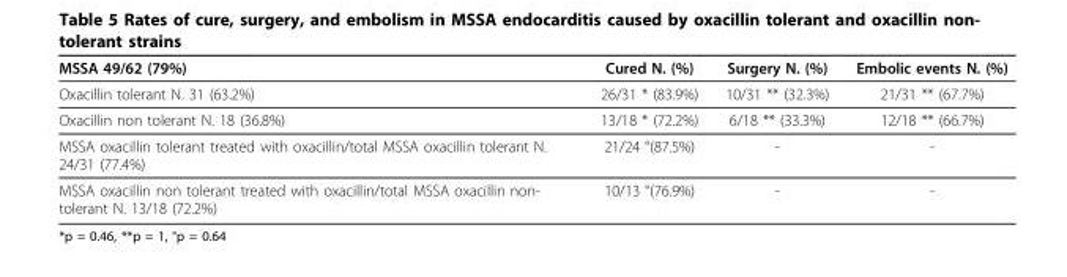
<table><thead><tr><td>MSSA 49/62 (79%)</td><td>Cured N. (%)</td><td>Surgery N. (%)</td><td>Embolic events N. (%)</td></tr></thead><tbody><tr><td>Oxacillin tolerant N. 31 (63.2%)</td><td>26/31 * (83.9%)</td><td>10/31 ** (32.3%)</td><td>21/31 ** (67.7%)</td></tr><tr><td>Oxacillin non tolerant N. 18 (36.8%)</td><td>13/18 * (72.2%)</td><td>6/18 ** (33.3%)</td><td>12/18 ** (66.7%)</td></tr><tr><td>MSSA oxacillin tolerant treated with oxacillin/total MSSA oxacillin tolerant N. 24/31 (77.4%)</td><td>21/24 °(87.5%)</td><td>-</td><td>-</td></tr><tr><td>MSSA oxacillin non tolerant treated with oxacillin/total MSSA oxacillin non- tolerant N. 13/18 (72.2%)</td><td>10/13 °(76.9%)</td><td>-</td><td>-</td></tr></tbody></table>